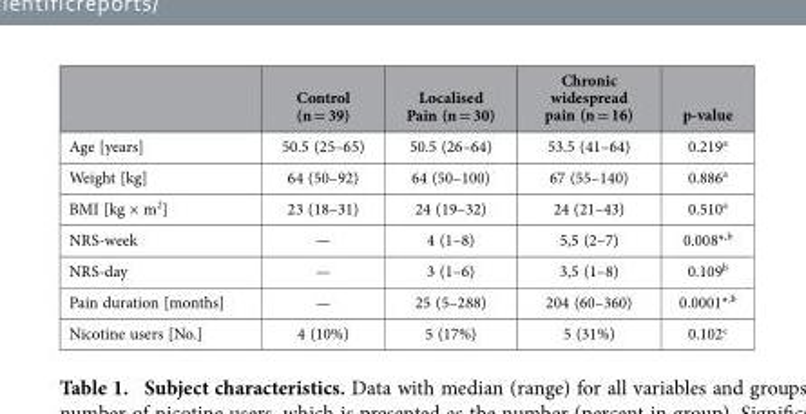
<table><thead><tr><td></td><td>Control (n = 39)</td><td>Localised Pain (n = 30)</td><td>Chronic widespread pain (n = 16)</td><td>p-value</td></tr></thead><tbody><tr><td>Age [years]</td><td>50.5 (25–65)</td><td>50.5 (26–64)</td><td>53.5 (41–64)</td><td>0.219<sup>a</sup></td></tr><tr><td>Weight [kg]</td><td>64 (50–92)</td><td>64 (50–100)</td><td>67 (55–140)</td><td>0.886<sup>a</sup></td></tr><tr><td>BMI [kg × m<sup>2</sup>]</td><td>23 (18–31)</td><td>24 (19–32)</td><td>24 (21–43)</td><td>0.510<sup>a</sup></td></tr><tr><td>NRS-week</td><td>—</td><td>4 (1–8)</td><td>5,5 (2–7)</td><td>0.008*<sup>,b</sup></td></tr><tr><td>NRS-day</td><td>—</td><td>3 (1–6)</td><td>3,5 (1–8)</td><td>0.109<sup>b</sup></td></tr><tr><td>Pain duration [months]</td><td>—</td><td>25 (5–288)</td><td>204 (60–360)</td><td>0.0001*<sup>,b</sup></td></tr><tr><td>Nicotine users [No.]</td><td>4 (10%)</td><td>5 (17%)</td><td>5 (31%)</td><td>0.102<sup>c</sup></td></tr></tbody></table>